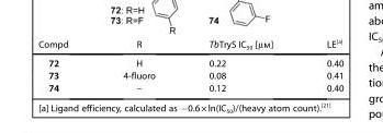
<table><thead><tr><td>Compd</td><td>R</td><td>TbTryS IC<sub>50</sub> [μm]</td><td>LE<sup>[a]</sup></td></tr></thead><tbody><tr><td>72</td><td>H</td><td>0.22</td><td>0.40</td></tr><tr><td>73</td><td>4-fluoro</td><td>0.08</td><td>0.41</td></tr><tr><td>74</td><td>–</td><td>0.12</td><td>0.40</td></tr></tbody></table>